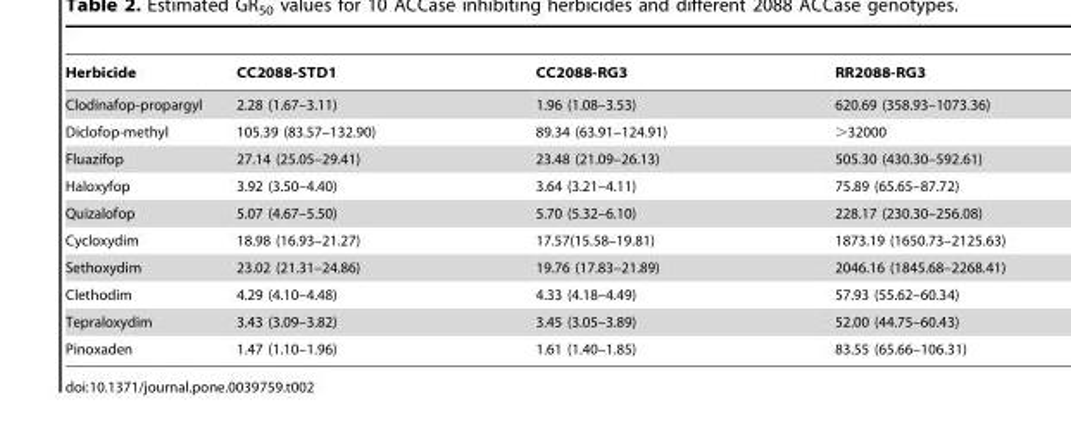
<table><thead><tr><td>Herbicide</td><td>CC2088-STD1</td><td>CC2088-RG3</td><td>RR2088-RG3</td></tr></thead><tbody><tr><td>Clodinafop-propargyl</td><td>2.28 (1.67–3.11)</td><td>1.96 (1.08–3.53)</td><td>620.69 (358.93–1073.36)</td></tr><tr><td>Diclofop-methyl</td><td>105.39 (83.57–132.90)</td><td>89.34 (63.91–124.91)</td><td>&gt;32000</td></tr><tr><td>Fluazifop</td><td>27.14 (25.05–29.41)</td><td>23.48 (21.09–26.13)</td><td>505.30 (430.30–592.61)</td></tr><tr><td>Haloxyfop</td><td>3.92 (3.50–4.40)</td><td>3.64 (3.21–4.11)</td><td>75.89 (65.65–87.72)</td></tr><tr><td>Quizalofop</td><td>5.07 (4.67–5.50)</td><td>5.70 (5.32–6.10)</td><td>228.17 (230.30–256.08)</td></tr><tr><td>Cycloxydim</td><td>18.98 (16.93–21.27)</td><td>17.57(15.58–19.81)</td><td>1873.19 (1650.73–2125.63)</td></tr><tr><td>Sethoxydim</td><td>23.02 (21.31–24.86)</td><td>19.76 (17.83–21.89)</td><td>2046.16 (1845.68–2268.41)</td></tr><tr><td>Clethodim</td><td>4.29 (4.10–4.48)</td><td>4.33 (4.18–4.49)</td><td>57.93 (55.62–60.34)</td></tr><tr><td>Tepraloxydim</td><td>3.43 (3.09–3.82)</td><td>3.45 (3.05–3.89)</td><td>52.00 (44.75–60.43)</td></tr><tr><td>Pinoxaden</td><td>1.47 (1.10–1.96)</td><td>1.61 (1.40–1.85)</td><td>83.55 (65.66–106.31)</td></tr></tbody></table>